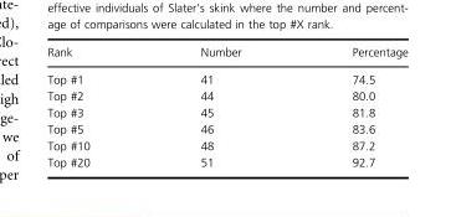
<table><thead><tr><td>Rank</td><td>Number</td><td>Percentage</td></tr></thead><tbody><tr><td>Top #1</td><td>41</td><td>74.5</td></tr><tr><td>Top #2</td><td>44</td><td>80.0</td></tr><tr><td>Top #3</td><td>45</td><td>81.8</td></tr><tr><td>Top #5</td><td>46</td><td>83.6</td></tr><tr><td>Top #10</td><td>48</td><td>87.2</td></tr><tr><td>Top #20</td><td>51</td><td>92.7</td></tr></tbody></table>